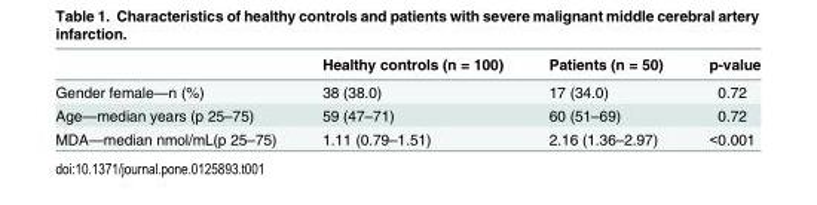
<table><thead><tr><td></td><td>Healthy controls (n = 100)</td><td>Patients (n = 50)</td><td>p-value</td></tr></thead><tbody><tr><td>Gender female—n (%)</td><td>38 (38.0)</td><td>17 (34.0)</td><td>0.72</td></tr><tr><td>Age—median years (p 25–75)</td><td>59 (47–71)</td><td>60 (51–69)</td><td>0.72</td></tr><tr><td>MDA—median nmol/mL(p 25–75)</td><td>1.11 (0.79–1.51)</td><td>2.16 (1.36–2.97)</td><td>&lt;0.001</td></tr></tbody></table>